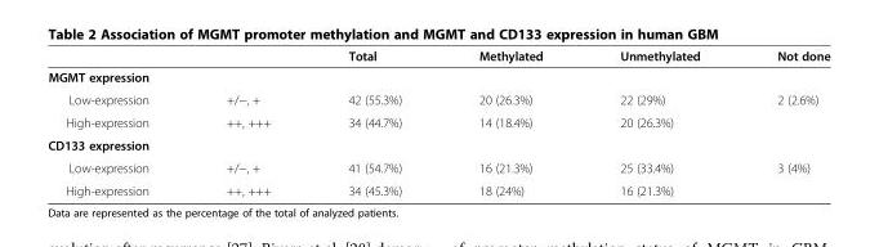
<table><thead><tr><td></td><td></td><td>Total</td><td>Methylated</td><td>Unmethylated</td><td>Not done</td></tr></thead><tbody><tr><td colspan="6">MGMT expression</td></tr><tr><td>Low-expression</td><td>+/−, +</td><td>42 (55.3%)</td><td>20 (26.3%)</td><td>22 (29%)</td><td>2 (2.6%)</td></tr><tr><td>High-expression</td><td>++, +++</td><td>34 (44.7%)</td><td>14 (18.4%)</td><td>20 (26.3%)</td><td></td></tr><tr><td colspan="6">CD133 expression</td></tr><tr><td>Low-expression</td><td>+/−, +</td><td>41 (54.7%)</td><td>16 (21.3%)</td><td>25 (33.4%)</td><td>3 (4%)</td></tr><tr><td>High-expression</td><td>++, +++</td><td>34 (45.3%)</td><td>18 (24%)</td><td>16 (21.3%)</td><td></td></tr></tbody></table>